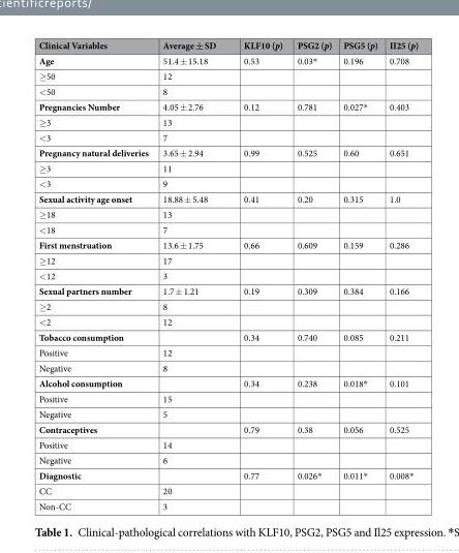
<table><thead><tr><td>Clinical Variables</td><td>Average ± SD</td><td>KLF10 (p)</td><td>PSG2 (p)</td><td>PSG5 (p)</td><td>II25 (p)</td></tr></thead><tbody><tr><td>Age</td><td>51.4 ± 15.18</td><td>0.53</td><td>0.03*</td><td>0.196</td><td>0.708</td></tr><tr><td>≥50</td><td>12</td><td></td><td></td><td></td><td></td></tr><tr><td>&lt;50</td><td>8</td><td></td><td></td><td></td><td></td></tr><tr><td>Pregnancies Number</td><td>4.05 ± 2.76</td><td>0.12</td><td>0.781</td><td>0.027*</td><td>0.403</td></tr><tr><td>≥3</td><td>13</td><td></td><td></td><td></td><td></td></tr><tr><td>&lt;3</td><td>7</td><td></td><td></td><td></td><td></td></tr><tr><td>Pregnancy natural deliveries</td><td>3.65 ± 2.94</td><td>0.99</td><td>0.525</td><td>0.60</td><td>0.651</td></tr><tr><td>≥3</td><td>11</td><td></td><td></td><td></td><td></td></tr><tr><td>&lt;3</td><td>9</td><td></td><td></td><td></td><td></td></tr><tr><td>Sexual activity age onset</td><td>18.88 ± 5.48</td><td>0.41</td><td>0.20</td><td>0.315</td><td>1.0</td></tr><tr><td>≥18</td><td>13</td><td></td><td></td><td></td><td></td></tr><tr><td>&lt;18</td><td>7</td><td></td><td></td><td></td><td></td></tr><tr><td>First menstruation</td><td>13.6 ± 1.75</td><td>0.66</td><td>0.609</td><td>0.159</td><td>0.286</td></tr><tr><td>≥12</td><td>17</td><td></td><td></td><td></td><td></td></tr><tr><td>&lt;12</td><td>3</td><td></td><td></td><td></td><td></td></tr><tr><td>Sexual partners number</td><td>1.7 ± 1.21</td><td>0.19</td><td>0.309</td><td>0.384</td><td>0.166</td></tr><tr><td>≥2</td><td>8</td><td></td><td></td><td></td><td></td></tr><tr><td>&lt;2</td><td>12</td><td></td><td></td><td></td><td></td></tr><tr><td>Tobacco consumption</td><td></td><td>0.34</td><td>0.740</td><td>0.085</td><td>0.211</td></tr><tr><td>Positive</td><td>12</td><td></td><td></td><td></td><td></td></tr><tr><td>Negative</td><td>8</td><td></td><td></td><td></td><td></td></tr><tr><td>Alcohol consumption</td><td></td><td>0.34</td><td>0.238</td><td>0.018*</td><td>0.101</td></tr><tr><td>Positive</td><td>15</td><td></td><td></td><td></td><td></td></tr><tr><td>Negative</td><td>5</td><td></td><td></td><td></td><td></td></tr><tr><td>Contraceptives</td><td></td><td>0.79</td><td>0.38</td><td>0.056</td><td>0.525</td></tr><tr><td>Positive</td><td>14</td><td></td><td></td><td></td><td></td></tr><tr><td>Negative</td><td>6</td><td></td><td></td><td></td><td></td></tr><tr><td>Diagnostic</td><td></td><td>0.77</td><td>0.026*</td><td>0.011*</td><td>0.008*</td></tr><tr><td>CC</td><td>20</td><td></td><td></td><td></td><td></td></tr><tr><td>Non-CC</td><td>3</td><td></td><td></td><td></td><td></td></tr></tbody></table>